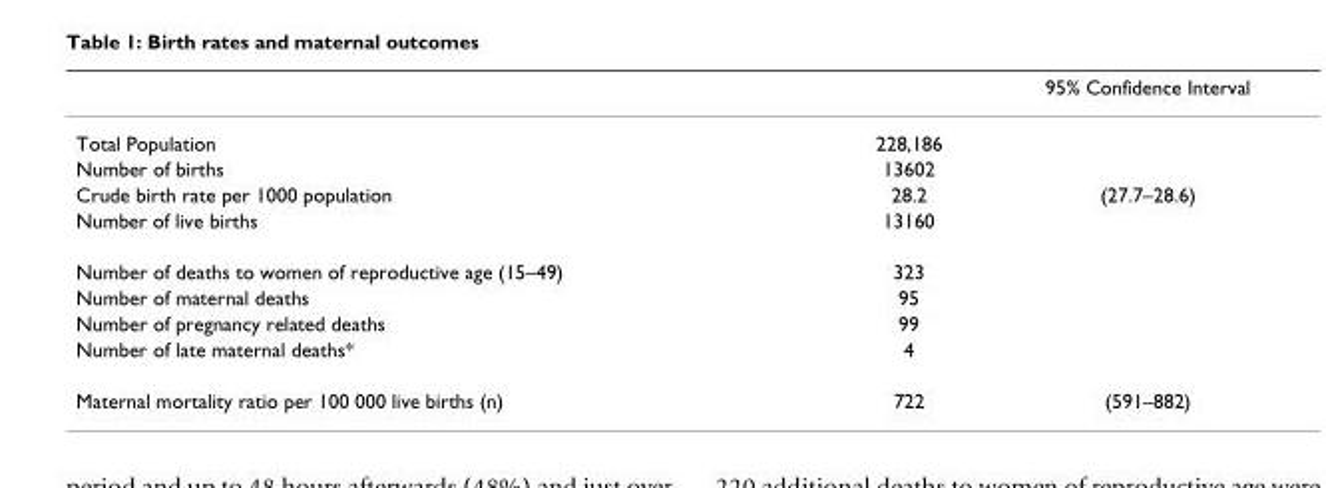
<table><thead><tr><td></td><td></td><td>95% Confidence Interval</td></tr></thead><tbody><tr><td>Total Population</td><td>228,186</td><td></td></tr><tr><td>Number of births</td><td>13602</td><td></td></tr><tr><td>Crude birth rate per 1000 population</td><td>28.2</td><td>(27.7–28.6)</td></tr><tr><td>Number of live births</td><td>13160</td><td></td></tr><tr><td>Number of deaths to women of reproductive age (15–49)</td><td>323</td><td></td></tr><tr><td>Number of maternal deaths</td><td>95</td><td></td></tr><tr><td>Number of pregnancy related deaths</td><td>99</td><td></td></tr><tr><td>Number of late maternal deaths*</td><td>4</td><td></td></tr><tr><td>Maternal mortality ratio per 100 000 live births (n)</td><td>722</td><td>(591–882)</td></tr></tbody></table>